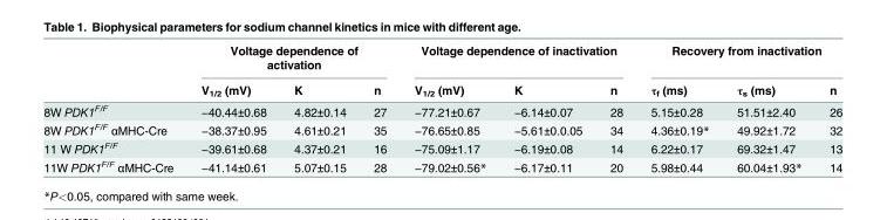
<table><thead><tr><td rowspan="2"></td><td colspan="3">Voltage dependence of activation</td><td colspan="3">Voltage dependence of inactivation</td><td colspan="3">Recovery from inactivation</td></tr><tr><td>V<sub>1/2</sub> (mV)</td><td>K</td><td>n</td><td>V<sub>1/2</sub> (mV)</td><td>K</td><td>n</td><td>τ<sub>f</sub> (ms)</td><td>τ<sub>s</sub> (ms)</td><td>n</td></tr></thead><tbody><tr><td>8W PDK1<sup>F/F</sup></td><td>−40.44±0.68</td><td>4.82±0.14</td><td>27</td><td>−77.21±0.67</td><td>−6.14±0.07</td><td>28</td><td>5.15±0.28</td><td>51.51±2.40</td><td>26</td></tr><tr><td>8W PDK1<sup>F/F</sup> αMHC-Cre</td><td>−38.37±0.95</td><td>4.61±0.21</td><td>35</td><td>−76.65±0.85</td><td>−5.61±0.0.05</td><td>34</td><td>4.36±0.19*</td><td>49.92±1.72</td><td>32</td></tr><tr><td>11 W PDK1<sup>F/F</sup></td><td>−39.61±0.68</td><td>4.37±0.21</td><td>16</td><td>−75.09±1.17</td><td>−6.19±0.08</td><td>14</td><td>6.22±0.17</td><td>69.32±1.47</td><td>13</td></tr><tr><td>11W PDK1<sup>F/F</sup> αMHC-Cre</td><td>−41.14±0.61</td><td>5.07±0.15</td><td>28</td><td>−79.02±0.56*</td><td>−6.17±0.11</td><td>20</td><td>5.98±0.44</td><td>60.04±1.93*</td><td>14</td></tr></tbody></table>